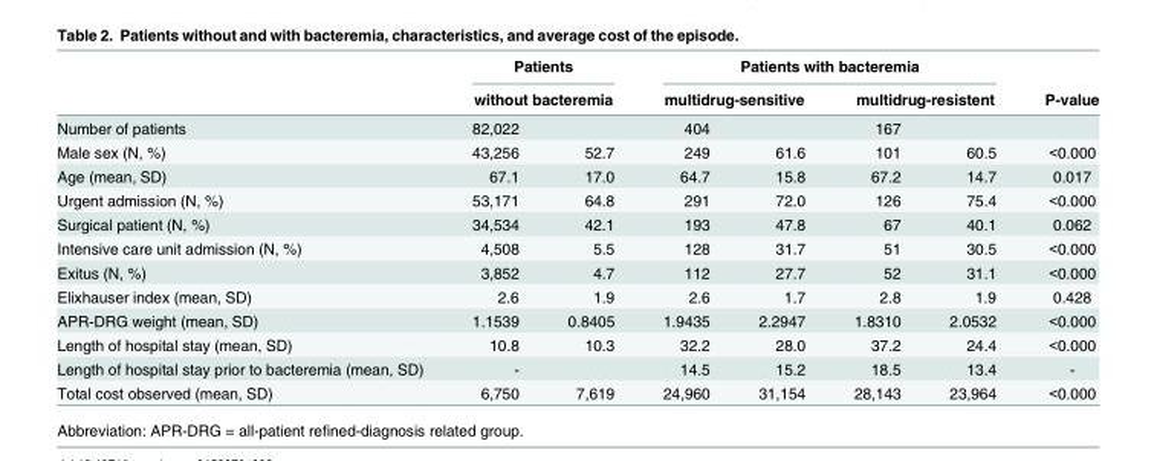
<table><thead><tr><td rowspan="3">Number of patients</td><td rowspan="2" colspan="2">Patients without bacteremia</td><td colspan="4">Patients with bacteremia</td><td rowspan="3">P-value</td></tr><tr><td colspan="2">multidrug-sensitive</td><td colspan="2">multidrug-resistent</td></tr><tr><td>82,022</td><td></td><td>404</td><td></td><td>167</td><td></td></tr></thead><tbody><tr><td>Male sex (N, %)</td><td>43,256</td><td>52.7</td><td>249</td><td>61.6</td><td>101</td><td>60.5</td><td>&lt;0.000</td></tr><tr><td>Age (mean, SD)</td><td>67.1</td><td>17.0</td><td>64.7</td><td>15.8</td><td>67.2</td><td>14.7</td><td>0.017</td></tr><tr><td>Urgent admission (N, %)</td><td>53,171</td><td>64.8</td><td>291</td><td>72.0</td><td>126</td><td>75.4</td><td>&lt;0.000</td></tr><tr><td>Surgical patient (N, %)</td><td>34,534</td><td>42.1</td><td>193</td><td>47.8</td><td>67</td><td>40.1</td><td>0.062</td></tr><tr><td>Intensive care unit admission (N, %)</td><td>4,508</td><td>5.5</td><td>128</td><td>31.7</td><td>51</td><td>30.5</td><td>&lt;0.000</td></tr><tr><td>Exitus (N, %)</td><td>3,852</td><td>4.7</td><td>112</td><td>27.7</td><td>52</td><td>31.1</td><td>&lt;0.000</td></tr><tr><td>Elixhauser index (mean, SD)</td><td>2.6</td><td>1.9</td><td>2.6</td><td>1.7</td><td>2.8</td><td>1.9</td><td>0.428</td></tr><tr><td>APR-DRG weight (mean, SD)</td><td>1.1539</td><td>0.8405</td><td>1.9435</td><td>2.2947</td><td>1.8310</td><td>2.0532</td><td>&lt;0.000</td></tr><tr><td>Length of hospital stay (mean, SD)</td><td>10.8</td><td>10.3</td><td>32.2</td><td>28.0</td><td>37.2</td><td>24.4</td><td>&lt;0.000</td></tr><tr><td>Length of hospital stay prior to bacteremia (mean, SD)</td><td>-</td><td></td><td>14.5</td><td>15.2</td><td>18.5</td><td>13.4</td><td>-</td></tr><tr><td>Total cost observed (mean, SD)</td><td>6,750</td><td>7,619</td><td>24,960</td><td>31,154</td><td>28,143</td><td>23,964</td><td>&lt;0.000</td></tr></tbody></table>